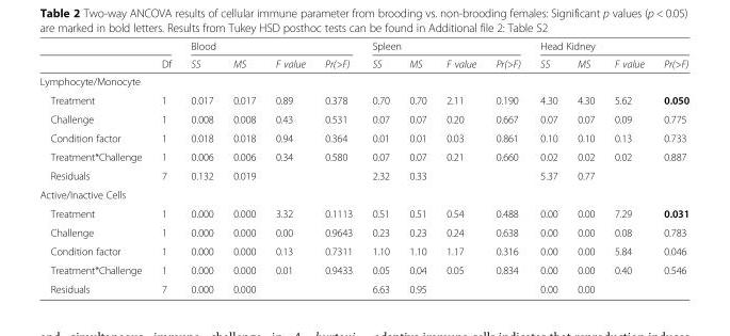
<table><thead><tr><td rowspan="2"></td><td rowspan="2">Df</td><td colspan="4">Blood</td><td colspan="4">Spleen</td><td colspan="4">Head Kidney</td></tr><tr><td>SS</td><td>MS</td><td>F value</td><td>Pr(&gt;F)</td><td>SS</td><td>MS</td><td>F value</td><td>Pr(&gt;F)</td><td>SS</td><td>MS</td><td>F value</td><td>Pr(&gt;F)</td></tr></thead><tbody><tr><td colspan="14">Lymphocyte/Monocyte</td></tr><tr><td>Treatment</td><td>1</td><td>0.017</td><td>0.017</td><td>0.89</td><td>0.378</td><td>0.70</td><td>0.70</td><td>2.11</td><td>0.190</td><td>4.30</td><td>4.30</td><td>5.62</td><td>0.050</td></tr><tr><td>Challenge</td><td>1</td><td>0.008</td><td>0.008</td><td>0.43</td><td>0.531</td><td>0.07</td><td>0.07</td><td>0.20</td><td>0.667</td><td>0.07</td><td>0.07</td><td>0.09</td><td>0.775</td></tr><tr><td>Condition factor</td><td>1</td><td>0.018</td><td>0.018</td><td>0.94</td><td>0.364</td><td>0.01</td><td>0.01</td><td>0.03</td><td>0.861</td><td>0.10</td><td>0.10</td><td>0.13</td><td>0.733</td></tr><tr><td>Treatment*Challenge</td><td>1</td><td>0.006</td><td>0.006</td><td>0.34</td><td>0.580</td><td>0.07</td><td>0.07</td><td>0.21</td><td>0.660</td><td>0.02</td><td>0.02</td><td>0.02</td><td>0.887</td></tr><tr><td>Residuals</td><td>7</td><td>0.132</td><td>0.019</td><td></td><td></td><td>2.32</td><td>0.33</td><td></td><td></td><td>5.37</td><td>0.77</td><td></td><td></td></tr><tr><td colspan="14">Active/Inactive Cells</td></tr><tr><td>Treatment</td><td>1</td><td>0.000</td><td>0.000</td><td>3.32</td><td>0.1113</td><td>0.51</td><td>0.51</td><td>0.54</td><td>0.488</td><td>0.00</td><td>0.00</td><td>7.29</td><td>0.031</td></tr><tr><td>Challenge</td><td>1</td><td>0.000</td><td>0.000</td><td>0.00</td><td>0.9643</td><td>0.23</td><td>0.23</td><td>0.24</td><td>0.638</td><td>0.00</td><td>0.00</td><td>0.08</td><td>0.783</td></tr><tr><td>Condition factor</td><td>1</td><td>0.000</td><td>0.000</td><td>0.13</td><td>0.7311</td><td>1.10</td><td>1.10</td><td>1.17</td><td>0.316</td><td>0.00</td><td>0.00</td><td>5.84</td><td>0.046</td></tr><tr><td>Treatment*Challenge</td><td>1</td><td>0.000</td><td>0.000</td><td>0.01</td><td>0.9433</td><td>0.05</td><td>0.04</td><td>0.05</td><td>0.834</td><td>0.00</td><td>0.00</td><td>0.40</td><td>0.546</td></tr><tr><td>Residuals</td><td>7</td><td>0.000</td><td>0.000</td><td></td><td></td><td>6.63</td><td>0.95</td><td></td><td></td><td>0.00</td><td>0.00</td><td></td><td></td></tr></tbody></table>